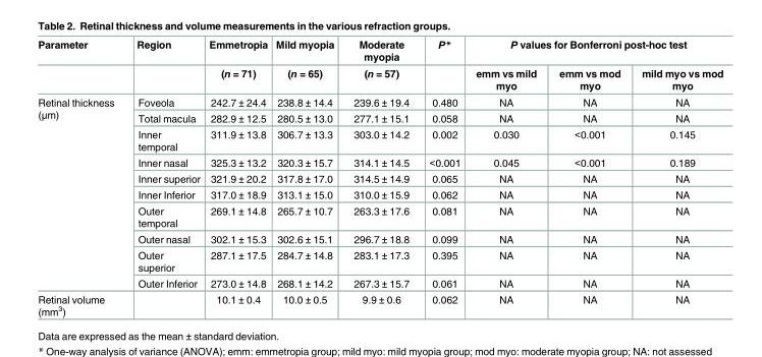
<table><thead><tr><td rowspan="2">Parameter</td><td rowspan="2">Region</td><td rowspan="2">Emmetropia (n = 71)</td><td rowspan="2">Mild myopia (n = 65)</td><td rowspan="2">Moderate myopia (n = 57)</td><td rowspan="2">P*</td><td colspan="3">P values for Bonferroni post-hoc test</td></tr><tr><td>emm vs mild myo</td><td>emm vs mod myo</td><td>mild myo vs mod myo</td></tr></thead><tbody><tr><td rowspan="10">Retinal thickness (μm)</td><td>Foveola</td><td>242.7 ± 24.4</td><td>238.8 ± 14.4</td><td>239.6 ± 19.4</td><td>0.480</td><td>NA</td><td>NA</td><td>NA</td></tr><tr><td>Total macula</td><td>282.9 ± 12.5</td><td>280.5 ± 13.0</td><td>277.1 ± 15.1</td><td>0.058</td><td>NA</td><td>NA</td><td>NA</td></tr><tr><td>Inner temporal</td><td>311.9 ± 13.8</td><td>306.7 ± 13.3</td><td>303.0 ± 14.2</td><td>0.002</td><td>0.030</td><td>&lt;0.001</td><td>0.145</td></tr><tr><td>Inner nasal</td><td>325.3 ± 13.2</td><td>320.3 ± 15.7</td><td>314.1 ± 14.5</td><td>&lt;0.001</td><td>0.045</td><td>&lt;0.001</td><td>0.189</td></tr><tr><td>Inner superior</td><td>321.9 ± 20.2</td><td>317.8 ± 17.0</td><td>314.5 ± 14.9</td><td>0.065</td><td>NA</td><td>NA</td><td>NA</td></tr><tr><td>Inner Inferior</td><td>317.0 ± 18.9</td><td>313.1 ± 15.0</td><td>310.0 ± 15.9</td><td>0.062</td><td>NA</td><td>NA</td><td>NA</td></tr><tr><td>Outer temporal</td><td>269.1 ± 14.8</td><td>265.7 ± 10.7</td><td>263.3 ± 17.6</td><td>0.081</td><td>NA</td><td>NA</td><td>NA</td></tr><tr><td>Outer nasal</td><td>302.1 ± 15.3</td><td>302.6 ± 15.1</td><td>296.7 ± 18.8</td><td>0.099</td><td>NA</td><td>NA</td><td>NA</td></tr><tr><td>Outer superior</td><td>287.1 ± 17.5</td><td>284.7 ± 14.8</td><td>283.1 ± 17.3</td><td>0.395</td><td>NA</td><td>NA</td><td>NA</td></tr><tr><td>Outer Inferior</td><td>273.0 ± 14.8</td><td>268.1 ± 14.2</td><td>267.3 ± 15.7</td><td>0.061</td><td>NA</td><td>NA</td><td>NA</td></tr><tr><td>Retinal volume (mm<sup>3</sup>)</td><td></td><td>10.1 ± 0.4</td><td>10.0 ± 0.5</td><td>9.9 ± 0.6</td><td>0.062</td><td>NA</td><td>NA</td><td>NA</td></tr></tbody></table>